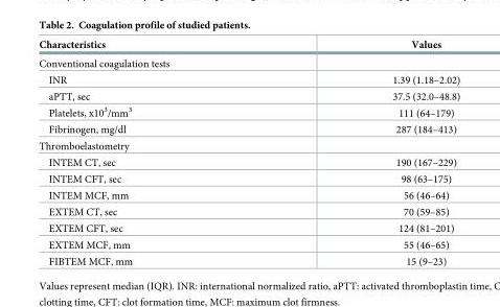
<table><thead><tr><td>Characteristics</td><td>Values</td></tr></thead><tbody><tr><td colspan="2">Conventional coagulation tests</td></tr><tr><td>INR</td><td>1.39 (1.18–2.02)</td></tr><tr><td>aPTT, sec</td><td>37.5 (32.0–48.8)</td></tr><tr><td>Platelets, x10<sup>3</sup>/mm<sup>3</sup></td><td>111 (64–179)</td></tr><tr><td>Fibrinogen, mg/dl</td><td>287 (184–413)</td></tr><tr><td colspan="2">Thromboelastometry</td></tr><tr><td>INTEM CT, sec</td><td>190 (167–229)</td></tr><tr><td>INTEM CFT, sec</td><td>98 (63–175)</td></tr><tr><td>INTEM MCF, mm</td><td>56 (46–64)</td></tr><tr><td>EXTEM CT, sec</td><td>70 (59–85)</td></tr><tr><td>EXTEM CFT, sec</td><td>124 (81–201)</td></tr><tr><td>EXTEM MCF, mm</td><td>55 (46–65)</td></tr><tr><td>FIBTEM MCF, mm</td><td>15 (9–23)</td></tr></tbody></table>